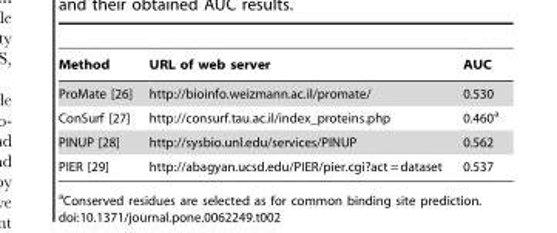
<table><thead><tr><td>Method</td><td>URL of web server</td><td>AUC</td></tr></thead><tbody><tr><td>ProMate [26]</td><td>http://bioinfo.weizmann.ac.il/promate/</td><td>0.530</td></tr><tr><td>ConSurf [27]</td><td>http://consurf.tau.ac.il/index_proteins.php</td><td>0.460<sup>a</sup></td></tr><tr><td>PINUP [28]</td><td>http://sysbio.unl.edu/services/PINUP</td><td>0.562</td></tr><tr><td>PIER [29]</td><td>http://abagyan.ucsd.edu/PIER/pier.cgi?act = dataset</td><td>0.537</td></tr></tbody></table>